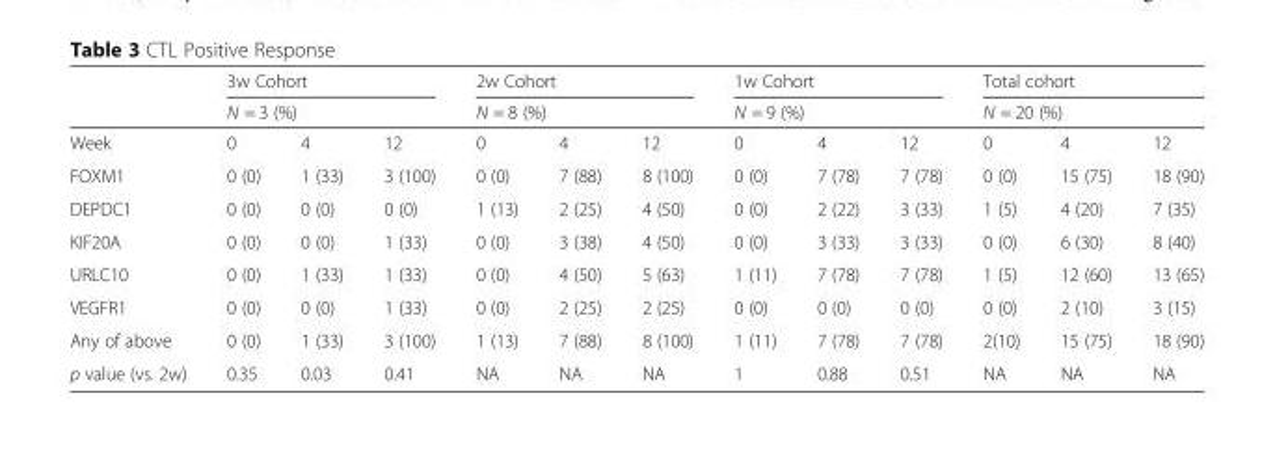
<table><thead><tr><td rowspan="3">Week</td><td rowspan="2" colspan="3">3w Cohort N = 3 (%)</td><td rowspan="2" colspan="3">2w Cohort N = 8 (%)</td><td rowspan="2" colspan="3">1w Cohort N = 9 (%)</td><td rowspan="2" colspan="3">Total cohort N = 20 (%)</td></tr><tr></tr><tr><td>0</td><td>4</td><td>12</td><td>0</td><td>4</td><td>12</td><td>0</td><td>4</td><td>12</td><td>0</td><td>4</td><td>12</td></tr></thead><tbody><tr><td>FOXM1</td><td>0 (0)</td><td>1 (33)</td><td>3 (100)</td><td>0 (0)</td><td>7 (88)</td><td>8 (100)</td><td>0 (0)</td><td>7 (78)</td><td>7 (78)</td><td>0 (0)</td><td>15 (75)</td><td>18 (90)</td></tr><tr><td>DEPDC1</td><td>0 (0)</td><td>0 (0)</td><td>0 (0)</td><td>1 (13)</td><td>2 (25)</td><td>4 (50)</td><td>0 (0)</td><td>2 (22)</td><td>3 (33)</td><td>1 (5)</td><td>4 (20)</td><td>7 (35)</td></tr><tr><td>KIF20A</td><td>0 (0)</td><td>0 (0)</td><td>1 (33)</td><td>0 (0)</td><td>3 (38)</td><td>4 (50)</td><td>0 (0)</td><td>3 (33)</td><td>3 (33)</td><td>0 (0)</td><td>6 (30)</td><td>8 (40)</td></tr><tr><td>URLC10</td><td>0 (0)</td><td>1 (33)</td><td>1 (33)</td><td>0 (0)</td><td>4 (50)</td><td>5 (63)</td><td>1 (11)</td><td>7 (78)</td><td>7 (78)</td><td>1 (5)</td><td>12 (60)</td><td>13 (65)</td></tr><tr><td>VEGFR1</td><td>0 (0)</td><td>0 (0)</td><td>1 (33)</td><td>0 (0)</td><td>2 (25)</td><td>2 (25)</td><td>0 (0)</td><td>0 (0)</td><td>0 (0)</td><td>0 (0)</td><td>2 (10)</td><td>3 (15)</td></tr><tr><td>Any of above</td><td>0 (0)</td><td>1 (33)</td><td>3 (100)</td><td>1 (13)</td><td>7 (88)</td><td>8 (100)</td><td>1 (11)</td><td>7 (78)</td><td>7 (78)</td><td>2(10)</td><td>15 (75)</td><td>18 (90)</td></tr><tr><td>p value (vs. 2w)</td><td>0.35</td><td>0.03</td><td>0.41</td><td>NA</td><td>NA</td><td>NA</td><td>1</td><td>0.88</td><td>0.51</td><td>NA</td><td>NA</td><td>NA</td></tr></tbody></table>